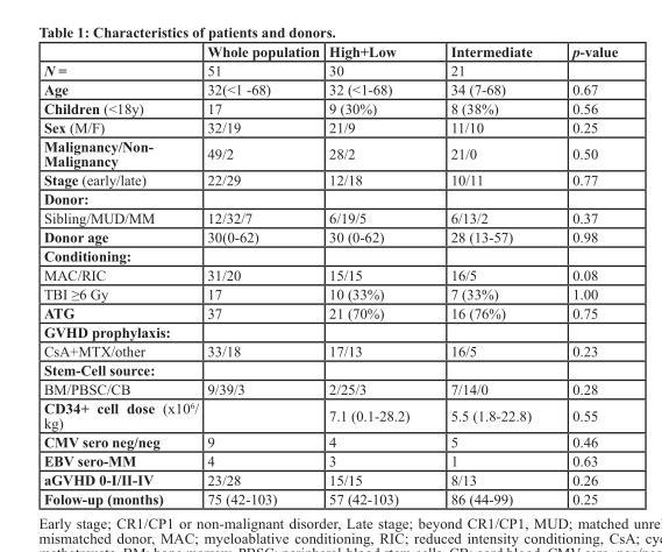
<table><thead><tr><td></td><td>Whole population</td><td>High+Low</td><td>Intermediate</td><td>p-value</td></tr></thead><tbody><tr><td>N =</td><td>51</td><td>30</td><td>21</td><td></td></tr><tr><td>Age</td><td>32(&lt;1 -68)</td><td>32 (&lt;1-68)</td><td>34 (7-68)</td><td>0.67</td></tr><tr><td>Children (&lt;18y)</td><td>17</td><td>9 (30%)</td><td>8 (38%)</td><td>0.56</td></tr><tr><td>Sex (M/F)</td><td>32/19</td><td>21/9</td><td>11/10</td><td>0.25</td></tr><tr><td>Malignancy/Non- Malignancy</td><td>49/2</td><td>28/2</td><td>21/0</td><td>0.50</td></tr><tr><td>Stage (early/late)</td><td>22/29</td><td>12/18</td><td>10/11</td><td>0.77</td></tr><tr><td colspan="5">Donor:</td></tr><tr><td>Sibling/MUD/MM</td><td>12/32/7</td><td>6/19/5</td><td>6/13/2</td><td>0.37</td></tr><tr><td>Donor age</td><td>30(0-62)</td><td>30 (0-62)</td><td>28 (13-57)</td><td>0.98</td></tr><tr><td colspan="5">Conditioning:</td></tr><tr><td>MAC/RIC</td><td>31/20</td><td>15/15</td><td>16/5</td><td>0.08</td></tr><tr><td>TBI ≥6 Gy</td><td>17</td><td>10 (33%)</td><td>7 (33%)</td><td>1.00</td></tr><tr><td>ATG</td><td>37</td><td>21 (70%)</td><td>16 (76%)</td><td>0.75</td></tr><tr><td colspan="5">GVHD prophylaxis:</td></tr><tr><td>CsA+MTX/other</td><td>33/18</td><td>17/13</td><td>16/5</td><td>0.23</td></tr><tr><td colspan="5">Stem-Cell source:</td></tr><tr><td>BM/PBSC/CB</td><td>9/39/3</td><td>2/25/3</td><td>7/14/0</td><td>0.28</td></tr><tr><td>CD34+ cell dose (x10<sup>6</sup>/ kg)</td><td></td><td>7.1 (0.1-28.2)</td><td>5.5 (1.8-22.8)</td><td>0.55</td></tr><tr><td>CMV sero neg/neg</td><td>9</td><td>4</td><td>5</td><td>0.46</td></tr><tr><td>EBV sero-MM</td><td>4</td><td>3</td><td>1</td><td>0.63</td></tr><tr><td>aGVHD 0-I/II-IV</td><td>23/28</td><td>15/15</td><td>8/13</td><td>0.26</td></tr><tr><td>Folow-up (months)</td><td>75 (42-103)</td><td>57 (42-103)</td><td>86 (44-99)</td><td>0.25</td></tr></tbody></table>